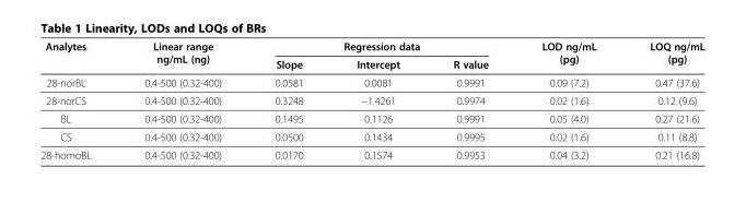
<table><thead><tr><td rowspan="2">Analytes</td><td rowspan="2">Linear range ng/mL (ng)</td><td colspan="3">Regression data</td><td rowspan="2">LOD ng/mL (pg)</td><td rowspan="2">LOQ ng/mL (pg)</td></tr><tr><td>Slope</td><td>Intercept</td><td>R value</td></tr></thead><tbody><tr><td>28-norBL</td><td>0.4-500 (0.32-400)</td><td>0.0581</td><td>0.0081</td><td>0.9991</td><td>0.09 (7.2)</td><td>0.47 (37.6)</td></tr><tr><td>28-norCS</td><td>0.4-500 (0.32-400)</td><td>0.3248</td><td>−1.4261</td><td>0.9974</td><td>0.02 (1.6)</td><td>0.12 (9.6)</td></tr><tr><td>BL</td><td>0.4-500 (0.32-400)</td><td>0.1495</td><td>0.1126</td><td>0.9991</td><td>0.05 (4.0)</td><td>0.27 (21.6)</td></tr><tr><td>CS</td><td>0.4-500 (0.32-400)</td><td>0.0500</td><td>0.1434</td><td>0.9995</td><td>0.02 (1.6)</td><td>0.11 (8.8)</td></tr><tr><td>28-homoBL</td><td>0.4-500 (0.32-400)</td><td>0.0170</td><td>0.1574</td><td>0.9953</td><td>0.04 (3.2)</td><td>0.21 (16.8)</td></tr></tbody></table>